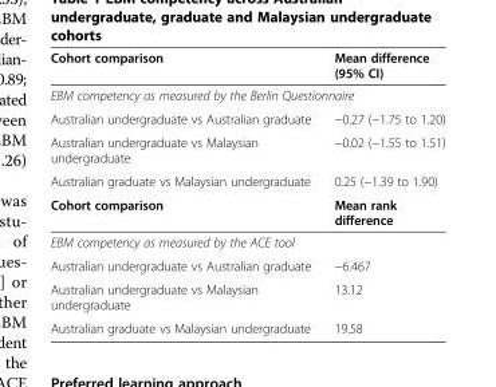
<table><thead><tr><td>Cohort comparison</td><td>Mean difference (95% CI)</td></tr></thead><tbody><tr><td colspan="2">EBM competency as measured by the Berlin Questionnaire</td></tr><tr><td>Australian undergraduate vs Australian graduate</td><td>−0.27 (−1.75 to 1.20)</td></tr><tr><td>Australian undergraduate vs Malaysian undergraduate</td><td>−0.02 (−1.55 to 1.51)</td></tr><tr><td>Australian graduate vs Malaysian undergraduate</td><td>0.25 (−1.39 to 1.90)</td></tr><tr><td>Cohort comparison</td><td>Mean rank difference</td></tr><tr><td colspan="2">EBM competency as measured by the ACE tool</td></tr><tr><td>Australian undergraduate vs Australian graduate</td><td>−6.467</td></tr><tr><td>Australian undergraduate vs Malaysian undergraduate</td><td>13.12</td></tr><tr><td>Australian graduate vs Malaysian undergraduate</td><td>19.58</td></tr></tbody></table>